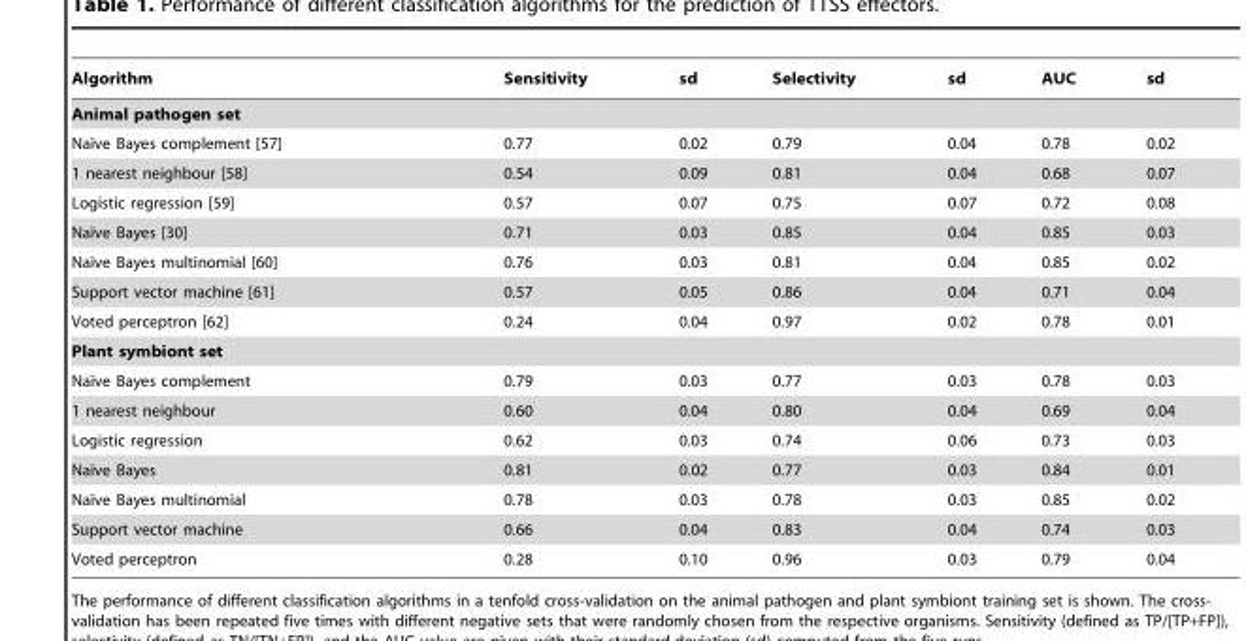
<table><thead><tr><td>Algorithm</td><td>Sensitivity</td><td>sd</td><td>Selectivity</td><td>sd</td><td>AUC</td><td>sd</td></tr></thead><tbody><tr><td colspan="7">Animal pathogen set</td></tr><tr><td>Naı¨ve Bayes complement [57]</td><td>0.77</td><td>0.02</td><td>0.79</td><td>0.04</td><td>0.78</td><td>0.02</td></tr><tr><td>1 nearest neighbour [58]</td><td>0.54</td><td>0.09</td><td>0.81</td><td>0.04</td><td>0.68</td><td>0.07</td></tr><tr><td>Logistic regression [59]</td><td>0.57</td><td>0.07</td><td>0.75</td><td>0.07</td><td>0.72</td><td>0.08</td></tr><tr><td>Naı¨ve Bayes [30]</td><td>0.71</td><td>0.03</td><td>0.85</td><td>0.04</td><td>0.85</td><td>0.03</td></tr><tr><td>Naı¨ve Bayes multinomial [60]</td><td>0.76</td><td>0.03</td><td>0.81</td><td>0.04</td><td>0.85</td><td>0.02</td></tr><tr><td>Support vector machine [61]</td><td>0.57</td><td>0.05</td><td>0.86</td><td>0.04</td><td>0.71</td><td>0.04</td></tr><tr><td>Voted perceptron [62]</td><td>0.24</td><td>0.04</td><td>0.97</td><td>0.02</td><td>0.78</td><td>0.01</td></tr><tr><td colspan="7">Plant symbiont set</td></tr><tr><td>Naı¨ve Bayes complement</td><td>0.79</td><td>0.03</td><td>0.77</td><td>0.03</td><td>0.78</td><td>0.03</td></tr><tr><td>1 nearest neighbour</td><td>0.60</td><td>0.04</td><td>0.80</td><td>0.04</td><td>0.69</td><td>0.04</td></tr><tr><td>Logistic regression</td><td>0.62</td><td>0.03</td><td>0.74</td><td>0.06</td><td>0.73</td><td>0.03</td></tr><tr><td>Naı¨ve Bayes</td><td>0.81</td><td>0.02</td><td>0.77</td><td>0.03</td><td>0.84</td><td>0.01</td></tr><tr><td>Naı¨ve Bayes multinomial</td><td>0.78</td><td>0.03</td><td>0.78</td><td>0.03</td><td>0.85</td><td>0.02</td></tr><tr><td>Support vector machine</td><td>0.66</td><td>0.04</td><td>0.83</td><td>0.04</td><td>0.74</td><td>0.03</td></tr><tr><td>Voted perceptron</td><td>0.28</td><td>0.10</td><td>0.96</td><td>0.03</td><td>0.79</td><td>0.04</td></tr></tbody></table>